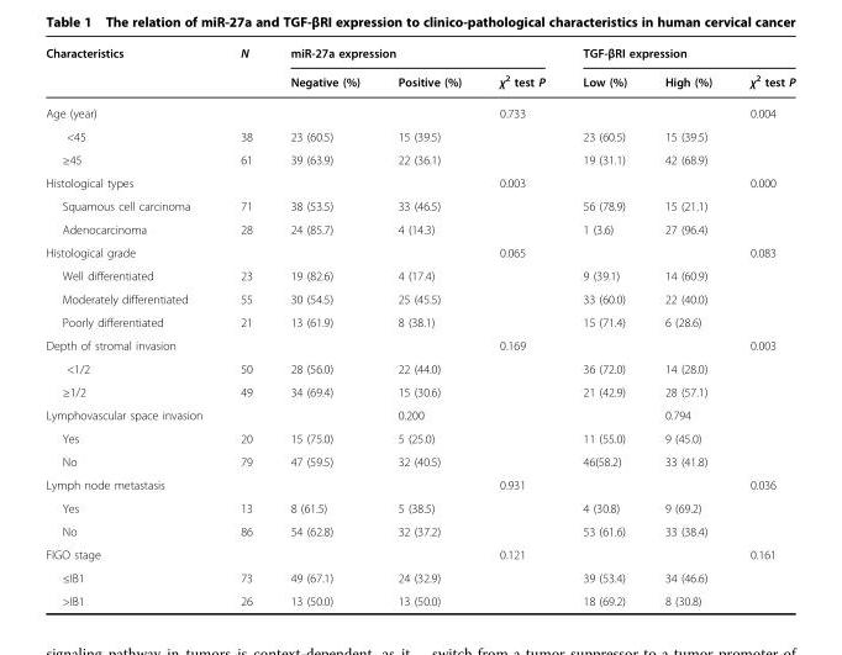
<table><thead><tr><td rowspan="2">Characteristics</td><td rowspan="2">N</td><td colspan="3">miR-27a expression</td><td colspan="3">TGF-βRI expression</td></tr><tr><td>Negative (%)</td><td>Positive (%)</td><td>χ<sup>2</sup> test P</td><td>Low (%)</td><td>High (%)</td><td>χ<sup>2</sup> test P</td></tr></thead><tbody><tr><td>Age (year)</td><td></td><td></td><td></td><td>0.733</td><td></td><td></td><td>0.004</td></tr><tr><td>&lt;45</td><td>38</td><td>23 (60.5)</td><td>15 (39.5)</td><td></td><td>23 (60.5)</td><td>15 (39.5)</td><td></td></tr><tr><td>≥45</td><td>61</td><td>39 (63.9)</td><td>22 (36.1)</td><td></td><td>19 (31.1)</td><td>42 (68.9)</td><td></td></tr><tr><td>Histological types</td><td></td><td></td><td></td><td>0.003</td><td></td><td></td><td>0.000</td></tr><tr><td>Squamous cell carcinoma</td><td>71</td><td>38 (53.5)</td><td>33 (46.5)</td><td></td><td>56 (78.9)</td><td>15 (21.1)</td><td></td></tr><tr><td>Adenocarcinoma</td><td>28</td><td>24 (85.7)</td><td>4 (14.3)</td><td></td><td>1 (3.6)</td><td>27 (96.4)</td><td></td></tr><tr><td>Histological grade</td><td></td><td></td><td></td><td>0.065</td><td></td><td></td><td>0.083</td></tr><tr><td>Well differentiated</td><td>23</td><td>19 (82.6)</td><td>4 (17.4)</td><td></td><td>9 (39.1)</td><td>14 (60.9)</td><td></td></tr><tr><td>Moderately differentiated</td><td>55</td><td>30 (54.5)</td><td>25 (45.5)</td><td></td><td>33 (60.0)</td><td>22 (40.0)</td><td></td></tr><tr><td>Poorly differentiated</td><td>21</td><td>13 (61.9)</td><td>8 (38.1)</td><td></td><td>15 (71.4)</td><td>6 (28.6)</td><td></td></tr><tr><td>Depth of stromal invasion</td><td></td><td></td><td></td><td>0.169</td><td></td><td></td><td>0.003</td></tr><tr><td>&lt;1/2</td><td>50</td><td>28 (56.0)</td><td>22 (44.0)</td><td></td><td>36 (72.0)</td><td>14 (28.0)</td><td></td></tr><tr><td>≥1/2</td><td>49</td><td>34 (69.4)</td><td>15 (30.6)</td><td></td><td>21 (42.9)</td><td>28 (57.1)</td><td></td></tr><tr><td>Lymphovascular space invasion</td><td></td><td></td><td>0.200</td><td></td><td></td><td>0.794</td><td></td></tr><tr><td>Yes</td><td>20</td><td>15 (75.0)</td><td>5 (25.0)</td><td></td><td>11 (55.0)</td><td>9 (45.0)</td><td></td></tr><tr><td>No</td><td>79</td><td>47 (59.5)</td><td>32 (40.5)</td><td></td><td>46(58.2)</td><td>33 (41.8)</td><td></td></tr><tr><td>Lymph node metastasis</td><td></td><td></td><td></td><td>0.931</td><td></td><td></td><td>0.036</td></tr><tr><td>Yes</td><td>13</td><td>8 (61.5)</td><td>5 (38.5)</td><td></td><td>4 (30.8)</td><td>9 (69.2)</td><td></td></tr><tr><td>No</td><td>86</td><td>54 (62.8)</td><td>32 (37.2)</td><td></td><td>53 (61.6)</td><td>33 (38.4)</td><td></td></tr><tr><td>FIGO stage</td><td></td><td></td><td></td><td>0.121</td><td></td><td></td><td>0.161</td></tr><tr><td>≤IB1</td><td>73</td><td>49 (67.1)</td><td>24 (32.9)</td><td></td><td>39 (53.4)</td><td>34 (46.6)</td><td></td></tr><tr><td>&gt;IB1</td><td>26</td><td>13 (50.0)</td><td>13 (50.0)</td><td></td><td>18 (69.2)</td><td>8 (30.8)</td><td></td></tr></tbody></table>